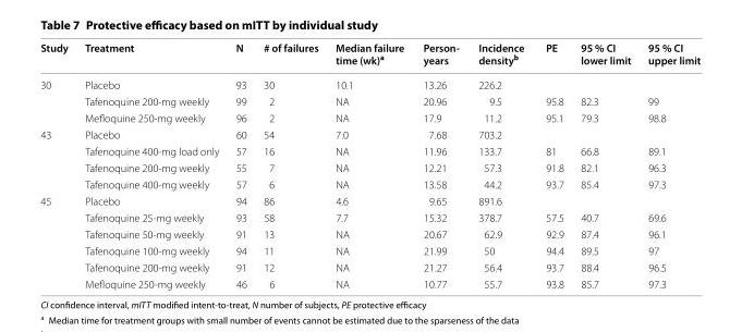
<table><thead><tr><td>Study</td><td>Treatment</td><td>N</td><td># of failures</td><td>Median failure time (wk)<sup>a</sup></td><td>Person- years</td><td>Incidence density<sup>b</sup></td><td>PE</td><td>95 % CI lower limit</td><td>95 % CI upper limit</td></tr></thead><tbody><tr><td rowspan="3">30</td><td>Placebo</td><td>93</td><td>30</td><td>10.1</td><td>13.26</td><td>226.2</td><td></td><td></td><td></td></tr><tr><td>Tafenoquine 200-mg weekly</td><td>99</td><td>2</td><td>NA</td><td>20.96</td><td>9.5</td><td>95.8</td><td>82.3</td><td>99</td></tr><tr><td>Mefloquine 250-mg weekly</td><td>96</td><td>2</td><td>NA</td><td>17.9</td><td>11.2</td><td>95.1</td><td>79.3</td><td>98.8</td></tr><tr><td rowspan="4">43</td><td>Placebo</td><td>60</td><td>54</td><td>7.0</td><td>7.68</td><td>703.2</td><td></td><td></td><td></td></tr><tr><td>Tafenoquine 400-mg load only</td><td>57</td><td>16</td><td>NA</td><td>11.96</td><td>133.7</td><td>81</td><td>66.8</td><td>89.1</td></tr><tr><td>Tafenoquine 200-mg weekly</td><td>55</td><td>7</td><td>NA</td><td>12.21</td><td>57.3</td><td>91.8</td><td>82.1</td><td>96.3</td></tr><tr><td>Tafenoquine 400-mg weekly</td><td>57</td><td>6</td><td>NA</td><td>13.58</td><td>44.2</td><td>93.7</td><td>85.4</td><td>97.3</td></tr><tr><td rowspan="6">45</td><td>Placebo</td><td>94</td><td>86</td><td>4.6</td><td>9.65</td><td>891.6</td><td></td><td></td><td></td></tr><tr><td>Tafenoquine 25-mg weekly</td><td>93</td><td>58</td><td>7.7</td><td>15.32</td><td>378.7</td><td>57.5</td><td>40.7</td><td>69.6</td></tr><tr><td>Tafenoquine 50-mg weekly</td><td>91</td><td>13</td><td>NA</td><td>20.67</td><td>62.9</td><td>92.9</td><td>87.4</td><td>96.1</td></tr><tr><td>Tafenoquine 100-mg weekly</td><td>94</td><td>11</td><td>NA</td><td>21.99</td><td>50</td><td>94.4</td><td>89.5</td><td>97</td></tr><tr><td>Tafenoquine 200-mg weekly</td><td>91</td><td>12</td><td>NA</td><td>21.27</td><td>56.4</td><td>93.7</td><td>88.4</td><td>96.5</td></tr><tr><td>Mefloquine 250-mg weekly</td><td>46</td><td>6</td><td>NA</td><td>10.77</td><td>55.7</td><td>93.8</td><td>85.7</td><td>97.3</td></tr></tbody></table>